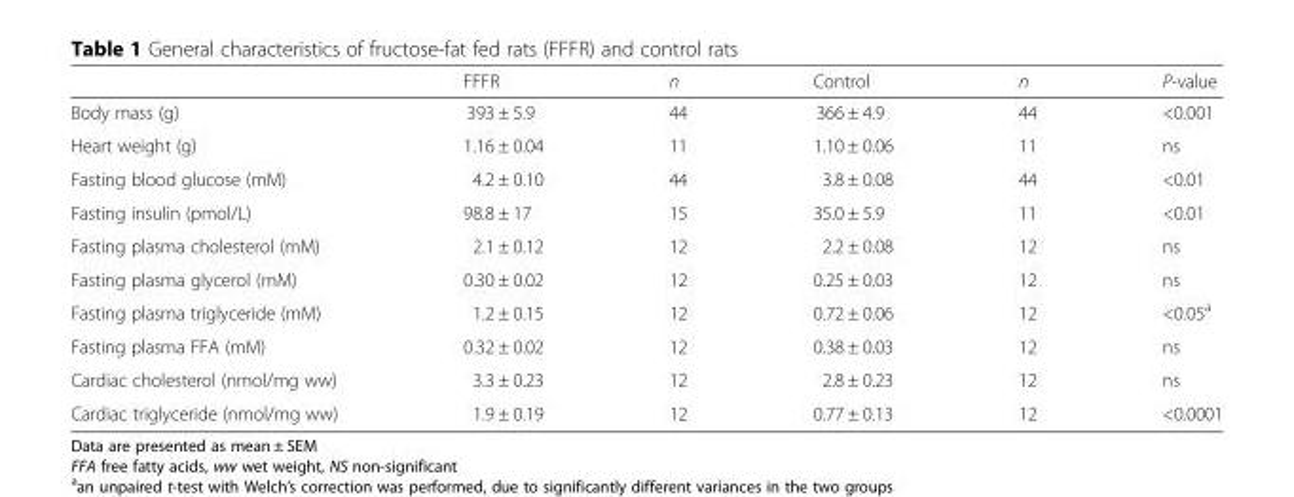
<table><thead><tr><td></td><td>FFFR</td><td>n</td><td>Control</td><td>n</td><td>P-value</td></tr></thead><tbody><tr><td>Body mass (g)</td><td>393 ± 5.9</td><td>44</td><td>366 ± 4.9</td><td>44</td><td>&lt;0.001</td></tr><tr><td>Heart weight (g)</td><td>1.16 ± 0.04</td><td>11</td><td>1.10 ± 0.06</td><td>11</td><td>ns</td></tr><tr><td>Fasting blood glucose (mM)</td><td>4.2 ± 0.10</td><td>44</td><td>3.8 ± 0.08</td><td>44</td><td>&lt;0.01</td></tr><tr><td>Fasting insulin (pmol/L)</td><td>98.8 ± 17</td><td>15</td><td>35.0 ± 5.9</td><td>11</td><td>&lt;0.01</td></tr><tr><td>Fasting plasma cholesterol (mM)</td><td>2.1 ± 0.12</td><td>12</td><td>2.2 ± 0.08</td><td>12</td><td>ns</td></tr><tr><td>Fasting plasma glycerol (mM)</td><td>0.30 ± 0.02</td><td>12</td><td>0.25 ± 0.03</td><td>12</td><td>ns</td></tr><tr><td>Fasting plasma triglyceride (mM)</td><td>1.2 ± 0.15</td><td>12</td><td>0.72 ± 0.06</td><td>12</td><td>&lt;0.05<sup>a</sup></td></tr><tr><td>Fasting plasma FFA (mM)</td><td>0.32 ± 0.02</td><td>12</td><td>0.38 ± 0.03</td><td>12</td><td>ns</td></tr><tr><td>Cardiac cholesterol (nmol/mg ww)</td><td>3.3 ± 0.23</td><td>12</td><td>2.8 ± 0.23</td><td>12</td><td>ns</td></tr><tr><td>Cardiac triglyceride (nmol/mg ww)</td><td>1.9 ± 0.19</td><td>12</td><td>0.77 ± 0.13</td><td>12</td><td>&lt;0.0001</td></tr></tbody></table>